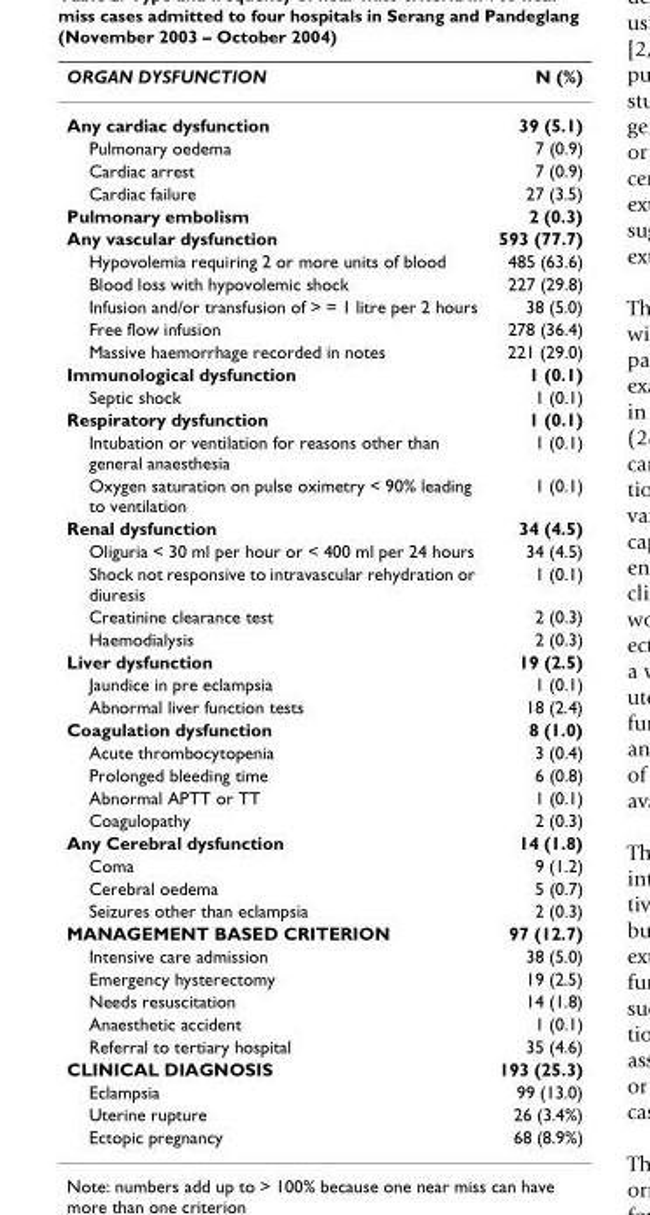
<table><thead><tr><td>ORGAN DYSFUNCTION</td><td>N (%)</td></tr></thead><tbody><tr><td>Any cardiac dysfunction</td><td>39 (5.1)</td></tr><tr><td>Pulmonary oedema</td><td>7 (0.9)</td></tr><tr><td>Cardiac arrest</td><td>7 (0.9)</td></tr><tr><td>Cardiac failure</td><td>27 (3.5)</td></tr><tr><td>Pulmonary embolism</td><td>2 (0.3)</td></tr><tr><td>Any vascular dysfunction</td><td>593 (77.7)</td></tr><tr><td>Hypovolemia requiring 2 or more units of blood</td><td>485 (63.6)</td></tr><tr><td>Blood loss with hypovolemic shock</td><td>227 (29.8)</td></tr><tr><td>Infusion and/or transfusion of &gt; = 1 litre per 2 hours</td><td>38 (5.0)</td></tr><tr><td>Free flow infusion</td><td>278 (36.4)</td></tr><tr><td>Massive haemorrhage recorded in notes</td><td>221 (29.0)</td></tr><tr><td>Immunological dysfunction</td><td>1 (0.1)</td></tr><tr><td>Septic shock</td><td>1 (0.1)</td></tr><tr><td>Respiratory dysfunction</td><td>1 (0.1)</td></tr><tr><td>Intubation or ventilation for reasons other than general anaesthesia</td><td>1 (0.1)</td></tr><tr><td>Oxygen saturation on pulse oximetry &lt; 90% leading to ventilation</td><td>1 (0.1)</td></tr><tr><td>Renal dysfunction</td><td>34 (4.5)</td></tr><tr><td>Oliguria &lt; 30 ml per hour or &lt; 400 ml per 24 hours</td><td>34 (4.5)</td></tr><tr><td>Shock not responsive to intravascular rehydration or diuresis</td><td>1 (0.1)</td></tr><tr><td>Creatinine clearance test</td><td>2 (0.3)</td></tr><tr><td>Haemodialysis</td><td>2 (0.3)</td></tr><tr><td>Liver dysfunction</td><td>19 (2.5)</td></tr><tr><td>Jaundice in pre eclampsia</td><td>1 (0.1)</td></tr><tr><td>Abnormal liver function tests</td><td>18 (2.4)</td></tr><tr><td>Coagulation dysfunction</td><td>8 (1.0)</td></tr><tr><td>Acute thrombocytopenia</td><td>3 (0.4)</td></tr><tr><td>Prolonged bleeding time</td><td>6 (0.8)</td></tr><tr><td>Abnormal APTT or TT</td><td>1 (0.1)</td></tr><tr><td>Coagulopathy</td><td>2 (0.3)</td></tr><tr><td>Any Cerebral dysfunction</td><td>14 (1.8)</td></tr><tr><td>Coma</td><td>9 (1.2)</td></tr><tr><td>Cerebral oedema</td><td>5 (0.7)</td></tr><tr><td>Seizures other than eclampsia</td><td>2 (0.3)</td></tr><tr><td>MANAGEMENT BASED CRITERION</td><td>97 (12.7)</td></tr><tr><td>Intensive care admission</td><td>38 (5.0)</td></tr><tr><td>Emergency hysterectomy</td><td>19 (2.5)</td></tr><tr><td>Needs resuscitation</td><td>14 (1.8)</td></tr><tr><td>Anaesthetic accident</td><td>1 (0.1)</td></tr><tr><td>Referral to tertiary hospital</td><td>35 (4.6)</td></tr><tr><td>CLINICAL DIAGNOSIS</td><td>193 (25.3)</td></tr><tr><td>Eclampsia</td><td>99 (13.0)</td></tr><tr><td>Uterine rupture</td><td>26 (3.4%)</td></tr><tr><td>Ectopic pregnancy</td><td>68 (8.9%)</td></tr></tbody></table>